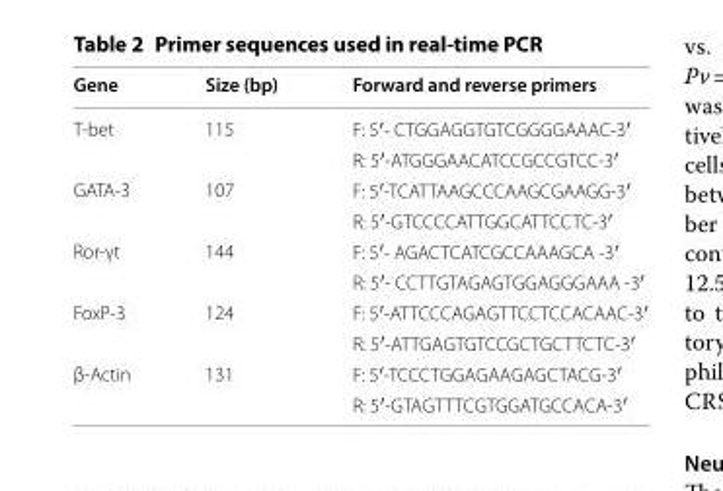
<table><thead><tr><td>Gene</td><td>Size (bp)</td><td>Forward and reverse primers</td></tr></thead><tbody><tr><td rowspan="2">T-bet</td><td rowspan="2">115</td><td>F: 5′- CTG GAG GTG TCG GGG AAA C-3′</td></tr><tr><td>R: 5′-ATG GGA ACA TCC GCC GTC C-3′</td></tr><tr><td rowspan="2">GATA-3</td><td rowspan="2">107</td><td>F: 5′-TCA TTA AGC CCA AGC GAA GG-3′</td></tr><tr><td>R: 5′-GTC CCC ATT GGC ATT CCT C-3′</td></tr><tr><td rowspan="2">Ror-γt</td><td rowspan="2">144</td><td>F: 5′- AGA CTC ATC GCC AAA GCA -3′</td></tr><tr><td>R: 5′- CCT TGT AGA GTG GAG GGA AA -3′</td></tr><tr><td rowspan="2">FoxP-3</td><td rowspan="2">124</td><td>F: 5′-ATT CCC AGA GTT CCT CCA CAAC-3′</td></tr><tr><td>R: 5′-ATT GAG TGT CCG CTG CTT CTC-3′</td></tr><tr><td rowspan="2">β-Actin</td><td rowspan="2">131</td><td>F: 5′-TCC CTG GAG AAG AGC TAC G-3′</td></tr><tr><td>R: 5′-GTA GTT TCG TGG ATG CCA CA-3′</td></tr></tbody></table>